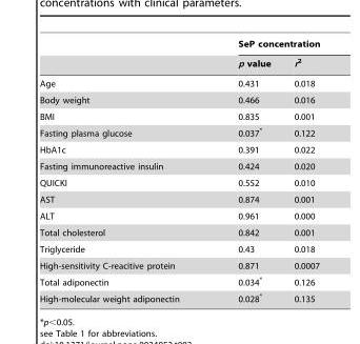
<table><thead><tr><td rowspan="2"></td><td colspan="2">SeP concentration</td></tr><tr><td>p value</td><td>r<sup>2</sup></td></tr></thead><tbody><tr><td>Age</td><td>0.431</td><td>0.018</td></tr><tr><td>Body weight</td><td>0.466</td><td>0.016</td></tr><tr><td>BMI</td><td>0.835</td><td>0.001</td></tr><tr><td>Fasting plasma glucose</td><td>0.037*</td><td>0.122</td></tr><tr><td>HbA1c</td><td>0.391</td><td>0.022</td></tr><tr><td>Fasting immunoreactive insulin</td><td>0.424</td><td>0.020</td></tr><tr><td>QUICKI</td><td>0.552</td><td>0.010</td></tr><tr><td>AST</td><td>0.874</td><td>0.001</td></tr><tr><td>ALT</td><td>0.961</td><td>0.000</td></tr><tr><td>Total cholesterol</td><td>0.842</td><td>0.001</td></tr><tr><td>Triglyceride</td><td>0.43</td><td>0.018</td></tr><tr><td>High-sensitivity C-reacitive protein</td><td>0.871</td><td>0.0007</td></tr><tr><td>Total adiponectin</td><td>0.034*</td><td>0.126</td></tr><tr><td>High-molecular weight adiponectin</td><td>0.028*</td><td>0.135</td></tr></tbody></table>